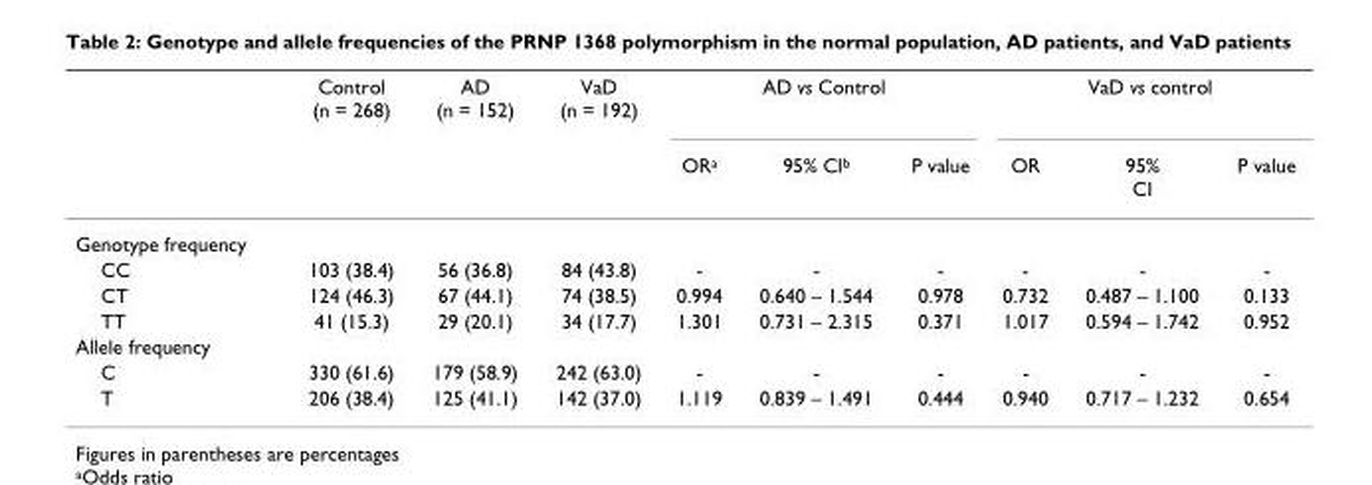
<table><thead><tr><td rowspan="2"></td><td rowspan="2">Control (n = 268)</td><td rowspan="2">AD (n = 152)</td><td rowspan="2">VaD (n = 192)</td><td colspan="3">AD vs Control</td><td colspan="3">VaD vs control</td></tr><tr><td>OR<sup>a</sup></td><td>95% CI<sup>b</sup></td><td>P value</td><td>OR</td><td>95% CI</td><td>P value</td></tr></thead><tbody><tr><td colspan="10">Genotype frequency</td></tr><tr><td>CC</td><td>103 (38.4)</td><td>56 (36.8)</td><td>84 (43.8)</td><td>-</td><td>-</td><td>-</td><td>-</td><td>-</td><td>-</td></tr><tr><td>CT</td><td>124 (46.3)</td><td>67 (44.1)</td><td>74 (38.5)</td><td>0.994</td><td>0.640 – 1.544</td><td>0.978</td><td>0.732</td><td>0.487 – 1.100</td><td>0.133</td></tr><tr><td>TT</td><td>41 (15.3)</td><td>29 (20.1)</td><td>34 (17.7)</td><td>1.301</td><td>0.731 – 2.315</td><td>0.371</td><td>1.017</td><td>0.594 – 1.742</td><td>0.952</td></tr><tr><td colspan="10">Allele frequency</td></tr><tr><td>C</td><td>330 (61.6)</td><td>179 (58.9)</td><td>242 (63.0)</td><td>-</td><td>-</td><td>-</td><td>-</td><td>-</td><td>-</td></tr><tr><td>T</td><td>206 (38.4)</td><td>125 (41.1)</td><td>142 (37.0)</td><td>1.119</td><td>0.839 – 1.491</td><td>0.444</td><td>0.940</td><td>0.717 – 1.232</td><td>0.654</td></tr></tbody></table>